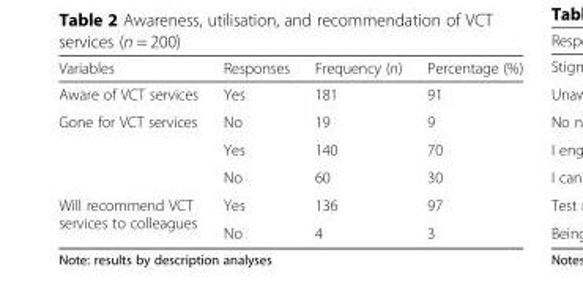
<table><thead><tr><td>Variables</td><td>Responses</td><td>Frequency (n)</td><td>Percentage (%)</td></tr></thead><tbody><tr><td>Aware of VCT services</td><td>Yes</td><td>181</td><td>91</td></tr><tr><td rowspan="3">Gone for VCT services</td><td>No</td><td>19</td><td>9</td></tr><tr><td>Yes</td><td>140</td><td>70</td></tr><tr><td>No</td><td>60</td><td>30</td></tr><tr><td rowspan="2">Will recommend VCT services to colleagues</td><td>Yes</td><td>136</td><td>97</td></tr><tr><td>No</td><td>4</td><td>3</td></tr></tbody></table>